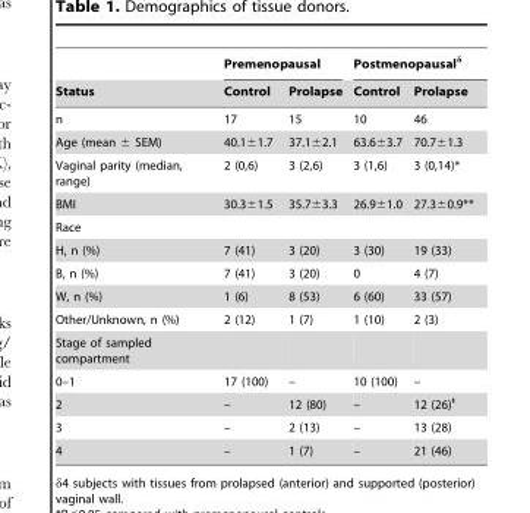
<table><thead><tr><td rowspan="2">Status</td><td colspan="2">Premenopausal</td><td colspan="2">Postmenopausal<sup>δ</sup></td></tr><tr><td>Control</td><td>Prolapse</td><td>Control</td><td>Prolapse</td></tr></thead><tbody><tr><td>n</td><td>17</td><td>15</td><td>10</td><td>46</td></tr><tr><td>Age (mean ± SEM)</td><td>40.1±1.7</td><td>37.1±2.1</td><td>63.6±3.7</td><td>70.7±1.3</td></tr><tr><td>Vaginal parity (median, range)</td><td>2 (0,6)</td><td>3 (2,6)</td><td>3 (1,6)</td><td>3 (0,14)*</td></tr><tr><td>BMI</td><td>30.3±1.5</td><td>35.7±3.3</td><td>26.9±1.0</td><td>27.3±0.9**</td></tr><tr><td colspan="5">Race</td></tr><tr><td>H, n (%)</td><td>7 (41)</td><td>3 (20)</td><td>3 (30)</td><td>19 (33)</td></tr><tr><td>B, n (%)</td><td>7 (41)</td><td>3 (20)</td><td>0</td><td>4 (7)</td></tr><tr><td>W, n (%)</td><td>1 (6)</td><td>8 (53)</td><td>6 (60)</td><td>33 (57)</td></tr><tr><td>Other/Unknown, n (%)</td><td>2 (12)</td><td>1 (7)</td><td>1 (10)</td><td>2 (3)</td></tr><tr><td colspan="5">Stage of sampled compartment</td></tr><tr><td>0–1</td><td>17 (100)</td><td>–</td><td>10 (100)</td><td>–</td></tr><tr><td>2</td><td>–</td><td>12 (80)</td><td>–</td><td>12 (26)t-</td></tr><tr><td>3</td><td>–</td><td>2 (13)</td><td>–</td><td>13 (28)</td></tr><tr><td>4</td><td>–</td><td>1 (7)</td><td>–</td><td>21 (46)</td></tr></tbody></table>